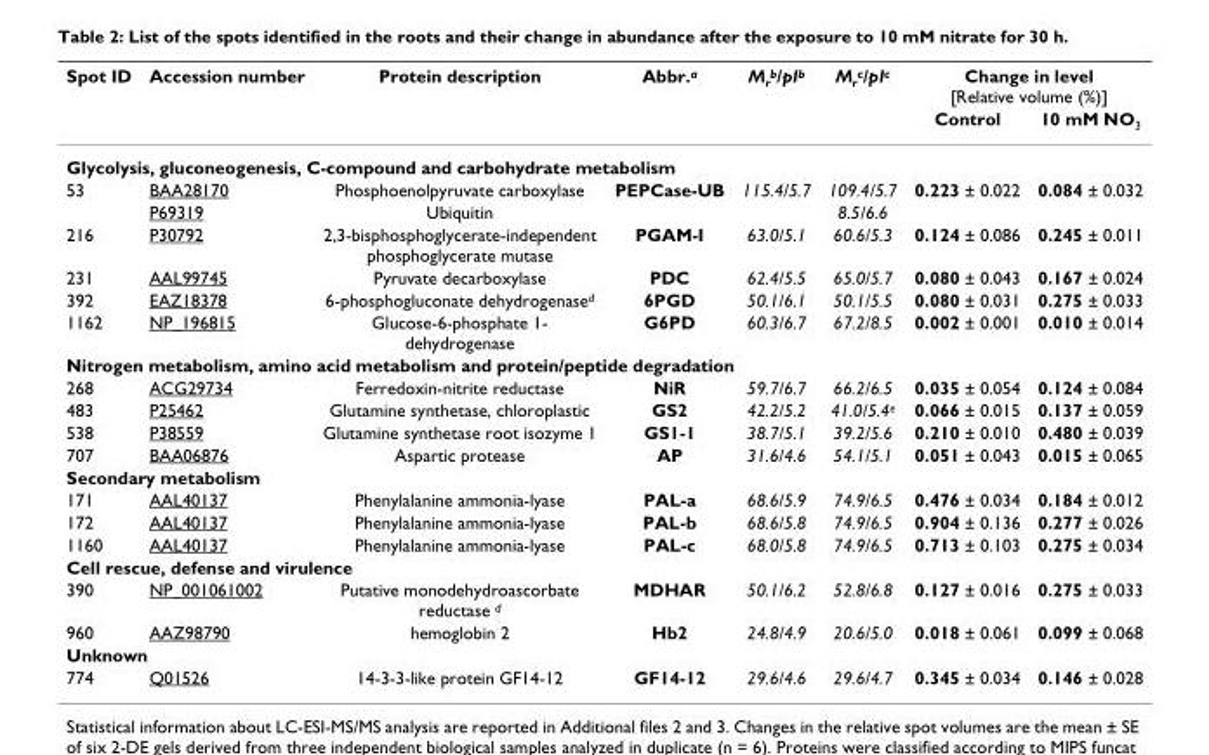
<table><thead><tr><td rowspan="2">Spot ID</td><td rowspan="2">Accession number</td><td rowspan="2">Protein description</td><td rowspan="2">Abbr.<sup>a</sup></td><td rowspan="2">M<sub>r</sub><sup>b</sup>/pI<sup>b</sup></td><td rowspan="2">M<sub>r</sub><sup>c</sup>/pI<sup>c</sup></td><td colspan="2">Change in level [Relative volume (%)]</td></tr><tr><td>Control</td><td>10 mM NO<sub>3</sub></td></tr></thead><tbody><tr><td colspan="8">Glycolysis, gluconeogenesis, C-compound and carbohydrate metabolism</td></tr><tr><td rowspan="2">53</td><td>BAA28170</td><td>Phosphoenolpyruvate carboxylase</td><td>PEPCase-UB</td><td>115.4/5.7</td><td>109.4/5.7</td><td>0.223 ± 0.022</td><td>0.084 ± 0.032</td></tr><tr><td>P69319</td><td>Ubiquitin</td><td></td><td></td><td>8.5/6.6</td><td></td><td></td></tr><tr><td>216</td><td>P30792</td><td>2,3-bisphosphoglycerate-independent phosphoglycerate mutase</td><td>PGAM-I</td><td>63.0/5.1</td><td>60.6/5.3</td><td>0.124 ± 0.086</td><td>0.245 ± 0.011</td></tr><tr><td>231</td><td>AAL99745</td><td>Pyruvate decarboxylase</td><td>PDC</td><td>62.4/5.5</td><td>65.0/5.7</td><td>0.080 ± 0.043</td><td>0.167 ± 0.024</td></tr><tr><td>392</td><td>EAZ18378</td><td>6-phosphogluconate dehydrogenase<sup>d</sup></td><td>6PGD</td><td>50.1/6.1</td><td>50.1/5.5</td><td>0.080 ± 0.031</td><td>0.275 ± 0.033</td></tr><tr><td>1162</td><td>NP_196815</td><td>Glucose-6-phosphate 1- dehydrogenase</td><td>G6PD</td><td>60.3/6.7</td><td>67.2/8.5</td><td>0.002 ± 0.001</td><td>0.010 ± 0.014</td></tr><tr><td colspan="8">Nitrogen metabolism, amino acid metabolism and protein/peptide degradation</td></tr><tr><td>268</td><td>ACG29734</td><td>Ferredoxin-nitrite reductase</td><td>NiR</td><td>59.7/6.7</td><td>66.2/6.5</td><td>0.035 ± 0.054</td><td>0.124 ± 0.084</td></tr><tr><td>483</td><td>P25462</td><td>Glutamine synthetase, chloroplastic</td><td>GS2</td><td>42.2/5.2</td><td>41.0/5.4<sup>e</sup></td><td>0.066 ± 0.015</td><td>0.137 ± 0.059</td></tr><tr><td>538</td><td>P38559</td><td>Glutamine synthetase root isozyme 1</td><td>GS1-1</td><td>38.7/5.1</td><td>39.2/5.6</td><td>0.210 ± 0.010</td><td>0.480 ± 0.039</td></tr><tr><td>707</td><td>BAA06876</td><td>Aspartic protease</td><td>AP</td><td>31.6/4.6</td><td>54.1/5.1</td><td>0.051 ± 0.043</td><td>0.015 ± 0.065</td></tr><tr><td colspan="8">Secondary metabolism</td></tr><tr><td>171</td><td>AAL40137</td><td>Phenylalanine ammonia-lyase</td><td>PAL-a</td><td>68.6/5.9</td><td>74.9/6.5</td><td>0.476 ± 0.034</td><td>0.184 ± 0.012</td></tr><tr><td>172</td><td>AAL40137</td><td>Phenylalanine ammonia-lyase</td><td>PAL-b</td><td>68.6/5.8</td><td>74.9/6.5</td><td>0.904 ± 0.136</td><td>0.277 ± 0.026</td></tr><tr><td>1160</td><td>AAL40137</td><td>Phenylalanine ammonia-lyase</td><td>PAL-c</td><td>68.0/5.8</td><td>74.9/6.5</td><td>0.713 ± 0.103</td><td>0.275 ± 0.034</td></tr><tr><td colspan="8">Cell rescue, defense and virulence</td></tr><tr><td>390</td><td>NP_001061002</td><td>Putative monodehydroascorbate reductase <sup>d</sup></td><td>MDHAR</td><td>50.1/6.2</td><td>52.8/6.8</td><td>0.127 ± 0.016</td><td>0.275 ± 0.033</td></tr><tr><td>960</td><td>AAZ98790</td><td>hemoglobin 2</td><td>Hb2</td><td>24.8/4.9</td><td>20.6/5.0</td><td>0.018 ± 0.061</td><td>0.099 ± 0.068</td></tr><tr><td colspan="8">Unknown</td></tr><tr><td>774</td><td>Q01526</td><td>14-3-3-like protein GF14-12</td><td>GF14-12</td><td>29.6/4.6</td><td>29.6/4.7</td><td>0.345 ± 0.034</td><td>0.146 ± 0.028</td></tr></tbody></table>